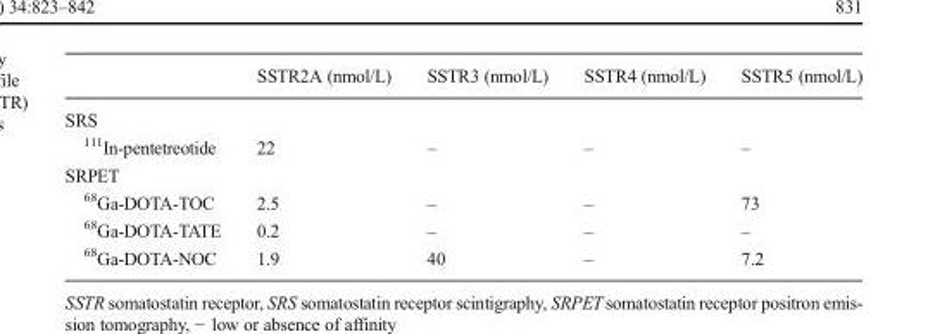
<table><thead><tr><td></td><td>SSTR2A (nmol/L)</td><td>SSTR3 (nmol/L)</td><td>SSTR4 (nmol/L)</td><td>SSTR5 (nmol/L)</td></tr></thead><tbody><tr><td colspan="5">SRS</td></tr><tr><td><sup>111</sup>In-pentetreotide</td><td>22</td><td>–</td><td>–</td><td>–</td></tr><tr><td colspan="5">SRPET</td></tr><tr><td><sup>68</sup>Ga-DOTA-TOC</td><td>2.5</td><td>–</td><td>–</td><td>73</td></tr><tr><td><sup>68</sup>Ga-DOTA-TATE</td><td>0.2</td><td>–</td><td>–</td><td>–</td></tr><tr><td><sup>68</sup>Ga-DOTA-NOC</td><td>1.9</td><td>40</td><td>–</td><td>7.2</td></tr></tbody></table>